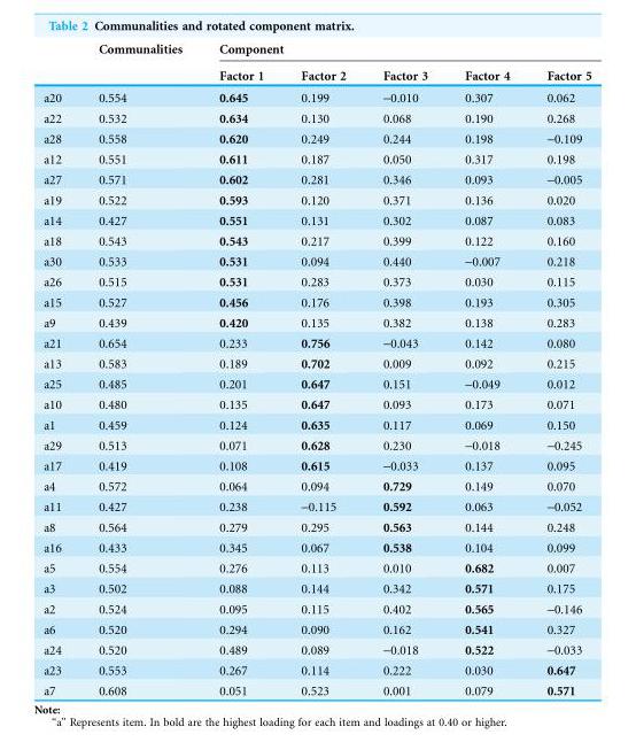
<table><thead><tr><td rowspan="2"></td><td rowspan="2">Communalities</td><td colspan="5">Component</td></tr><tr><td>Factor 1</td><td>Factor 2</td><td>Factor 3</td><td>Factor 4</td><td>Factor 5</td></tr></thead><tbody><tr><td>a20</td><td>0.554</td><td>0.645</td><td>0.199</td><td>-0.010</td><td>0.307</td><td>0.062</td></tr><tr><td>a22</td><td>0.532</td><td>0.634</td><td>0.130</td><td>0.068</td><td>0.190</td><td>0.268</td></tr><tr><td>a28</td><td>0.558</td><td>0.620</td><td>0.249</td><td>0.244</td><td>0.198</td><td>-0.109</td></tr><tr><td>a12</td><td>0.551</td><td>0.611</td><td>0.187</td><td>0.050</td><td>0.317</td><td>0.198</td></tr><tr><td>a27</td><td>0.571</td><td>0.602</td><td>0.281</td><td>0.346</td><td>0.093</td><td>-0.005</td></tr><tr><td>a19</td><td>0.522</td><td>0.593</td><td>0.120</td><td>0.371</td><td>0.136</td><td>0.020</td></tr><tr><td>a14</td><td>0.427</td><td>0.551</td><td>0.131</td><td>0.302</td><td>0.087</td><td>0.083</td></tr><tr><td>a18</td><td>0.543</td><td>0.543</td><td>0.217</td><td>0.399</td><td>0.122</td><td>0.160</td></tr><tr><td>a30</td><td>0.533</td><td>0.531</td><td>0.094</td><td>0.440</td><td>-0.007</td><td>0.218</td></tr><tr><td>a26</td><td>0.515</td><td>0.531</td><td>0.283</td><td>0.373</td><td>0.030</td><td>0.115</td></tr><tr><td>a15</td><td>0.527</td><td>0.456</td><td>0.176</td><td>0.398</td><td>0.193</td><td>0.305</td></tr><tr><td>a9</td><td>0.439</td><td>0.420</td><td>0.135</td><td>0.382</td><td>0.138</td><td>0.283</td></tr><tr><td>a21</td><td>0.654</td><td>0.233</td><td>0.756</td><td>-0.043</td><td>0.142</td><td>0.080</td></tr><tr><td>a13</td><td>0.583</td><td>0.189</td><td>0.702</td><td>0.009</td><td>0.092</td><td>0.215</td></tr><tr><td>a25</td><td>0.485</td><td>0.201</td><td>0.647</td><td>0.151</td><td>-0.049</td><td>0.012</td></tr><tr><td>a10</td><td>0.480</td><td>0.135</td><td>0.647</td><td>0.093</td><td>0.173</td><td>0.071</td></tr><tr><td>a1</td><td>0.459</td><td>0.124</td><td>0.635</td><td>0.117</td><td>0.069</td><td>0.150</td></tr><tr><td>a29</td><td>0.513</td><td>0.071</td><td>0.628</td><td>0.230</td><td>-0.018</td><td>-0.245</td></tr><tr><td>a17</td><td>0.419</td><td>0.108</td><td>0.615</td><td>-0.033</td><td>0.137</td><td>0.095</td></tr><tr><td>a4</td><td>0.572</td><td>0.064</td><td>0.094</td><td>0.729</td><td>0.149</td><td>0.070</td></tr><tr><td>a11</td><td>0.427</td><td>0.238</td><td>-0.115</td><td>0.592</td><td>0.063</td><td>-0.052</td></tr><tr><td>a8</td><td>0.564</td><td>0.279</td><td>0.295</td><td>0.563</td><td>0.144</td><td>0.248</td></tr><tr><td>a16</td><td>0.433</td><td>0.345</td><td>0.067</td><td>0.538</td><td>0.104</td><td>0.099</td></tr><tr><td>a5</td><td>0.554</td><td>0.276</td><td>0.113</td><td>0.010</td><td>0.682</td><td>0.007</td></tr><tr><td>a3</td><td>0.502</td><td>0.088</td><td>0.144</td><td>0.342</td><td>0.571</td><td>0.175</td></tr><tr><td>a2</td><td>0.524</td><td>0.095</td><td>0.115</td><td>0.402</td><td>0.565</td><td>-0.146</td></tr><tr><td>a6</td><td>0.520</td><td>0.294</td><td>0.090</td><td>0.162</td><td>0.541</td><td>0.327</td></tr><tr><td>a24</td><td>0.520</td><td>0.489</td><td>0.089</td><td>-0.018</td><td>0.522</td><td>-0.033</td></tr><tr><td>a23</td><td>0.553</td><td>0.267</td><td>0.114</td><td>0.222</td><td>0.030</td><td>0.647</td></tr><tr><td>a7</td><td>0.608</td><td>0.051</td><td>0.523</td><td>0.001</td><td>0.079</td><td>0.571</td></tr></tbody></table>